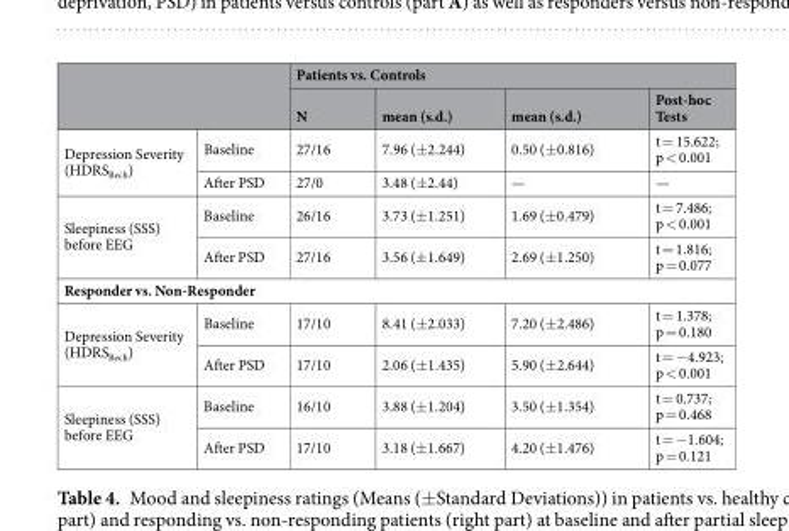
<table><thead><tr><td rowspan="2"></td><td rowspan="2"></td><td colspan="4">Patients vs. Controls</td></tr><tr><td>N</td><td>mean (s.d.)</td><td>mean (s.d.)</td><td>Post-hoc Tests</td></tr></thead><tbody><tr><td rowspan="2">Depression Severity (HDRS<sub>Bech</sub>)</td><td>Baseline</td><td>27/16</td><td>7.96 (±2.244)</td><td>0.50 (±0.816)</td><td>t = 15.622; p &lt; 0.001</td></tr><tr><td>After PSD</td><td>27/0</td><td>3.48 (±2.44)</td><td>—</td><td>—</td></tr><tr><td rowspan="2">Sleepiness (SSS) before EEG</td><td>Baseline</td><td>26/16</td><td>3.73 (±1.251)</td><td>1.69 (±0.479)</td><td>t = 7.486; p &lt; 0.001</td></tr><tr><td>After PSD</td><td>27/16</td><td>3.56 (±1.649)</td><td>2.69 (±1.250)</td><td>t = 1.816; p = 0.077</td></tr><tr><td colspan="6">Responder vs. Non-Responder</td></tr><tr><td rowspan="2">Depression Severity (HDRS<sub>Bech</sub>)</td><td>Baseline</td><td>17/10</td><td>8.41 (±2.033)</td><td>7.20 (±2.486)</td><td>t = 1.378; p = 0.180</td></tr><tr><td>After PSD</td><td>17/10</td><td>2.06 (±1.435)</td><td>5.90 (±2.644)</td><td>t = −4.923; p &lt; 0.001</td></tr><tr><td rowspan="2">Sleepiness (SSS) before EEG</td><td>Baseline</td><td>16/10</td><td>3.88 (±1.204)</td><td>3.50 (±1.354)</td><td>t = 0.737; p = 0.468</td></tr><tr><td>After PSD</td><td>17/10</td><td>3.18 (±1.667)</td><td>4.20 (±1.476)</td><td>t = −1.604; p = 0.121</td></tr></tbody></table>